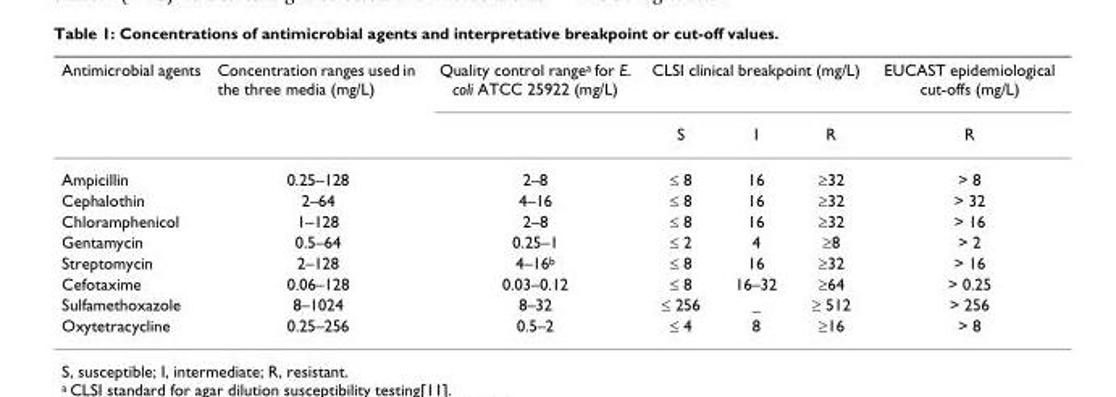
<table><thead><tr><td rowspan="2">Antimicrobial agents</td><td rowspan="2">Concentration ranges used in the three media (mg/L)</td><td rowspan="2">Quality control range<sup>a</sup> for E. coli ATCC 25922 (mg/L)</td><td colspan="3">CLSI clinical breakpoint (mg/L)</td><td rowspan="2">EUCAST epidemiological cut-offs (mg/L) R</td></tr><tr><td>S</td><td>I</td><td>R</td></tr></thead><tbody><tr><td>Ampicillin</td><td>0.25–128</td><td>2–8</td><td>≤ 8</td><td>16</td><td>≥32</td><td>&gt; 8</td></tr><tr><td>Cephalothin</td><td>2–64</td><td>4–16</td><td>≤ 8</td><td>16</td><td>≥32</td><td>&gt; 32</td></tr><tr><td>Chloramphenicol</td><td>1–128</td><td>2–8</td><td>≤ 8</td><td>16</td><td>≥32</td><td>&gt; 16</td></tr><tr><td>Gentamycin</td><td>0.5–64</td><td>0.25–1</td><td>≤ 2</td><td>4</td><td>≥8</td><td>&gt; 2</td></tr><tr><td>Streptomycin</td><td>2–128</td><td>4–16<sup>b</sup></td><td>≤ 8</td><td>16</td><td>≥32</td><td>&gt; 16</td></tr><tr><td>Cefotaxime</td><td>0.06–128</td><td>0.03–0.12</td><td>≤ 8</td><td>16–32</td><td>≥64</td><td>&gt; 0.25</td></tr><tr><td>Sulfamethoxazole</td><td>8–1024</td><td>8–32</td><td>≤ 256</td><td>_</td><td>≥ 512</td><td>&gt; 256</td></tr><tr><td>Oxytetracycline</td><td>0.25–256</td><td>0.5–2</td><td>≤ 4</td><td>8</td><td>≥16</td><td>&gt; 8</td></tr></tbody></table>